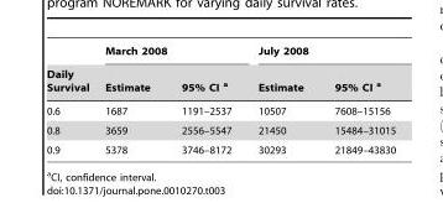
<table><thead><tr><td rowspan="2">Daily Survival</td><td colspan="2">March 2008</td><td colspan="2">July 2008</td></tr><tr><td>Estimate</td><td>95% CI a</td><td>Estimate</td><td>95% CI a</td></tr></thead><tbody><tr><td>0.6</td><td>1687</td><td>1191–2537</td><td>10507</td><td>7608–15156</td></tr><tr><td>0.8</td><td>3659</td><td>2556–5547</td><td>21450</td><td>15484–31015</td></tr><tr><td>0.9</td><td>5378</td><td>3746–8172</td><td>30293</td><td>21849–43830</td></tr></tbody></table>